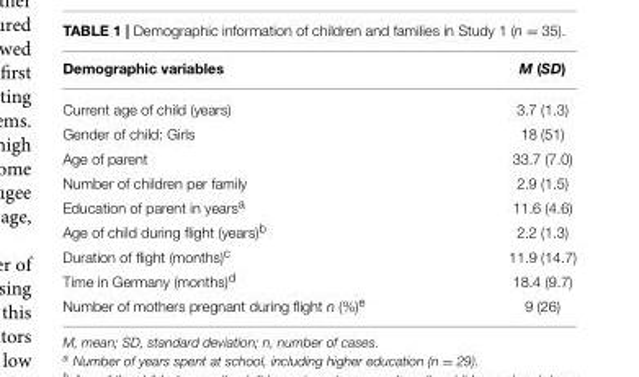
<table><thead><tr><td>Demographic variables</td><td>M (SD)</td></tr></thead><tbody><tr><td>Current age of child (years)</td><td>3.7 (1.3)</td></tr><tr><td>Gender of child: Girls</td><td>18 (51)</td></tr><tr><td>Age of parent</td><td>33.7 (7.0)</td></tr><tr><td>Number of children per family</td><td>2.9 (1.5)</td></tr><tr><td>Education of parent in years<sup>a</sup></td><td>11.6 (4.6)</td></tr><tr><td>Age of child during flight (years)<sup>b</sup></td><td>2.2 (1.3)</td></tr><tr><td>Duration of flight (months)<sup>c</sup></td><td>11.9 (14.7)</td></tr><tr><td>Time in Germany (months)<sup>d</sup></td><td>18.4 (9.7)</td></tr><tr><td>Number of mothers pregnant during flight n (%)<sup>e</sup></td><td>9 (26)</td></tr></tbody></table>